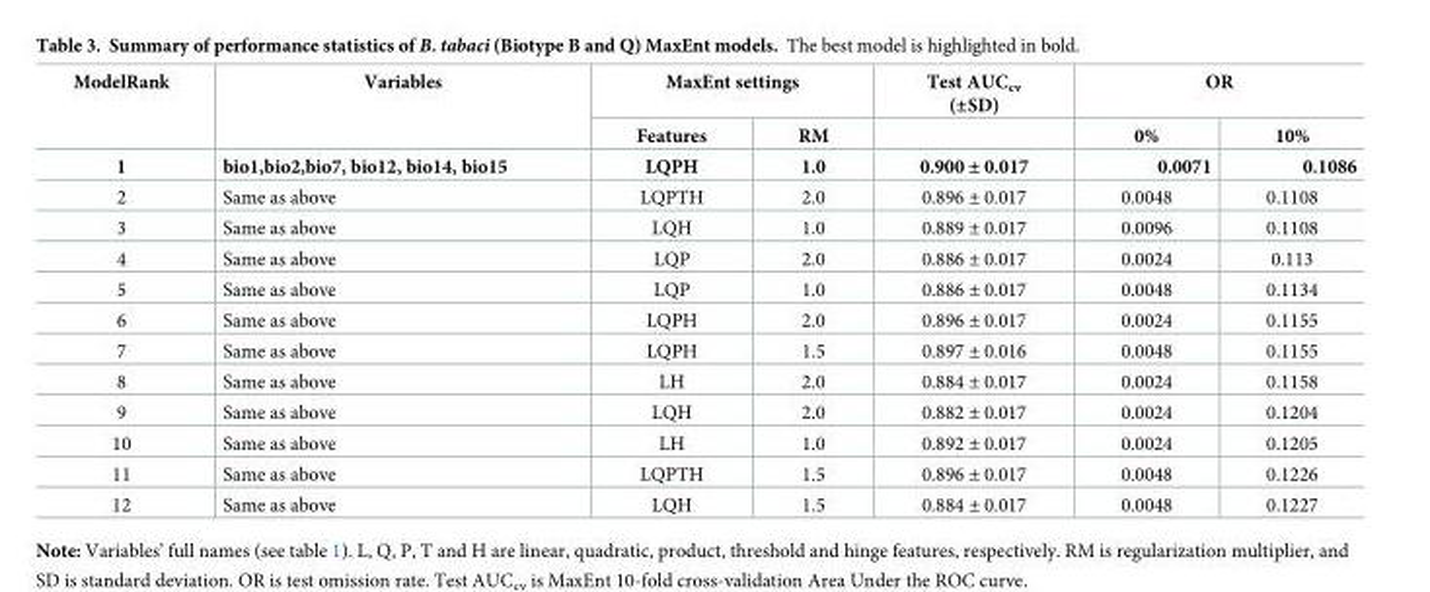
<table><thead><tr><td rowspan="2">ModelRank</td><td rowspan="2">Variables</td><td colspan="2">MaxEnt settings</td><td rowspan="2">Test AUC<sub>cv</sub> (±SD)</td><td colspan="2">OR</td></tr><tr><td>Features</td><td>RM</td><td>0%</td><td>10%</td></tr></thead><tbody><tr><td>1</td><td>bio1,bio2,bio7, bio12, bio14, bio15</td><td>LQPH</td><td>1.0</td><td>0.900 ± 0.017</td><td>0.0071</td><td>0.1086</td></tr><tr><td>2</td><td>Same as above</td><td>LQPTH</td><td>2.0</td><td>0.896 ± 0.017</td><td>0.0048</td><td>0.1108</td></tr><tr><td>3</td><td>Same as above</td><td>LQH</td><td>1.0</td><td>0.889 ± 0.017</td><td>0.0096</td><td>0.1108</td></tr><tr><td>4</td><td>Same as above</td><td>LQP</td><td>2.0</td><td>0.886 ± 0.017</td><td>0.0024</td><td>0.113</td></tr><tr><td>5</td><td>Same as above</td><td>LQP</td><td>1.0</td><td>0.886 ± 0.017</td><td>0.0048</td><td>0.1134</td></tr><tr><td>6</td><td>Same as above</td><td>LQPH</td><td>2.0</td><td>0.896 ± 0.017</td><td>0.0024</td><td>0.1155</td></tr><tr><td>7</td><td>Same as above</td><td>LQPH</td><td>1.5</td><td>0.897 ± 0.016</td><td>0.0048</td><td>0.1155</td></tr><tr><td>8</td><td>Same as above</td><td>LH</td><td>2.0</td><td>0.884 ± 0.017</td><td>0.0024</td><td>0.1158</td></tr><tr><td>9</td><td>Same as above</td><td>LQH</td><td>2.0</td><td>0.882 ± 0.017</td><td>0.0024</td><td>0.1204</td></tr><tr><td>10</td><td>Same as above</td><td>LH</td><td>1.0</td><td>0.892 ± 0.017</td><td>0.0024</td><td>0.1205</td></tr><tr><td>11</td><td>Same as above</td><td>LQPTH</td><td>1.5</td><td>0.896 ± 0.017</td><td>0.0048</td><td>0.1226</td></tr><tr><td>12</td><td>Same as above</td><td>LQH</td><td>1.5</td><td>0.884 ± 0.017</td><td>0.0048</td><td>0.1227</td></tr></tbody></table>